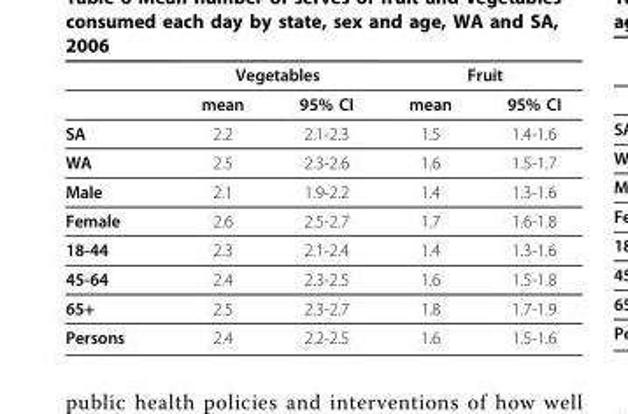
<table><thead><tr><td rowspan="2"></td><td colspan="2">Vegetables</td><td colspan="2">Fruit</td></tr><tr><td>mean</td><td>95% CI</td><td>mean</td><td>95% CI</td></tr></thead><tbody><tr><td>SA</td><td>2.2</td><td>2.1-2.3</td><td>1.5</td><td>1.4-1.6</td></tr><tr><td>WA</td><td>2.5</td><td>2.3-2.6</td><td>1.6</td><td>1.5-1.7</td></tr><tr><td>Male</td><td>2.1</td><td>1.9-2.2</td><td>1.4</td><td>1.3-1.6</td></tr><tr><td>Female</td><td>2.6</td><td>2.5-2.7</td><td>1.7</td><td>1.6-1.8</td></tr><tr><td>18-44</td><td>2.3</td><td>2.1-2.4</td><td>1.4</td><td>1.3-1.6</td></tr><tr><td>45-64</td><td>2.4</td><td>2.3-2.5</td><td>1.6</td><td>1.5-1.8</td></tr><tr><td>65+</td><td>2.5</td><td>2.3-2.7</td><td>1.8</td><td>1.7-1.9</td></tr><tr><td>Persons</td><td>2.4</td><td>2.2-2.5</td><td>1.6</td><td>1.5-1.6</td></tr></tbody></table>